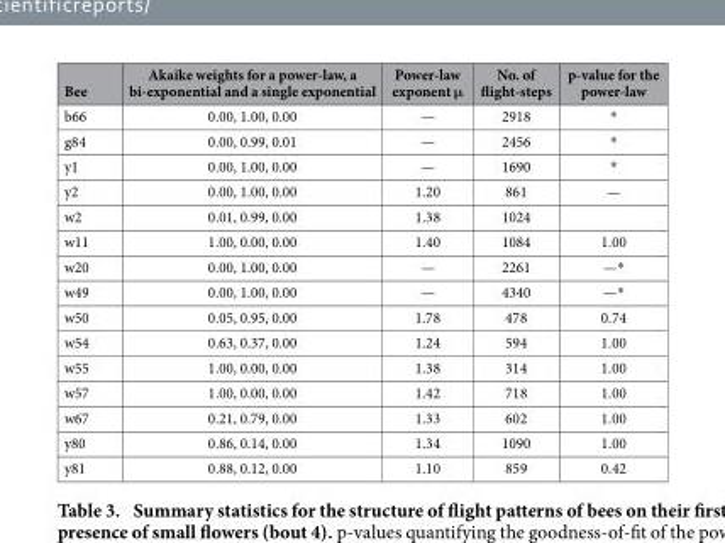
<table><thead><tr><td>Bee</td><td>Akaike weights for a power-law, a bi-exponential and a single exponential</td><td>Power-law exponent μ</td><td>No. of flight-steps</td><td>p-value for the power-law</td></tr></thead><tbody><tr><td>b66</td><td>0.00, 1.00, 0.00</td><td>—</td><td>2918</td><td>*</td></tr><tr><td>g84</td><td>0.00, 0.99, 0.01</td><td>—</td><td>2456</td><td>*</td></tr><tr><td>y1</td><td>0.00, 1.00, 0.00</td><td>—</td><td>1690</td><td>*</td></tr><tr><td>y2</td><td>0.00, 1.00, 0.00</td><td>1.20</td><td>861</td><td>—</td></tr><tr><td>w2</td><td>0.01, 0.99, 0.00</td><td>1.38</td><td>1024</td><td></td></tr><tr><td>w11</td><td>1.00, 0.00, 0.00</td><td>1.40</td><td>1084</td><td>1.00</td></tr><tr><td>w20</td><td>0.00, 1.00, 0.00</td><td>—</td><td>2261</td><td>—*</td></tr><tr><td>w49</td><td>0.00, 1.00, 0.00</td><td>—</td><td>4340</td><td>—*</td></tr><tr><td>w50</td><td>0.05, 0.95, 0.00</td><td>1.78</td><td>478</td><td>0.74</td></tr><tr><td>w54</td><td>0.63, 0.37, 0.00</td><td>1.24</td><td>594</td><td>1.00</td></tr><tr><td>w55</td><td>1.00, 0.00, 0.00</td><td>1.38</td><td>314</td><td>1.00</td></tr><tr><td>w57</td><td>1.00, 0.00, 0.00</td><td>1.42</td><td>718</td><td>1.00</td></tr><tr><td>w67</td><td>0.21, 0.79, 0.00</td><td>1.33</td><td>602</td><td>1.00</td></tr><tr><td>y80</td><td>0.86, 0.14, 0.00</td><td>1.34</td><td>1090</td><td>1.00</td></tr><tr><td>y81</td><td>0.88, 0.12, 0.00</td><td>1.10</td><td>859</td><td>0.42</td></tr></tbody></table>